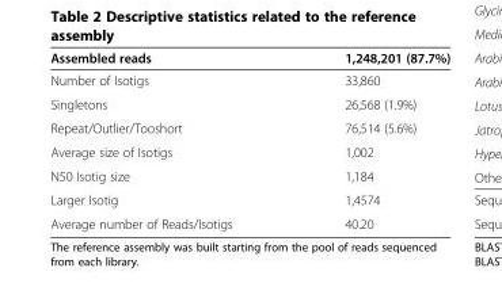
<table><thead><tr><td>Assembled reads</td><td>1,248,201 (87.7%)</td></tr></thead><tbody><tr><td>Number of Isotigs</td><td>33,860</td></tr><tr><td>Singletons</td><td>26,568 (1.9%)</td></tr><tr><td>Repeat/Outlier/Tooshort</td><td>76,514 (5.6%)</td></tr><tr><td>Average size of Isotigs</td><td>1,002</td></tr><tr><td>N50 Isotig size</td><td>1,184</td></tr><tr><td>Larger Isotig</td><td>1,4574</td></tr><tr><td>Average number of Reads/Isotigs</td><td>40.20</td></tr></tbody></table>